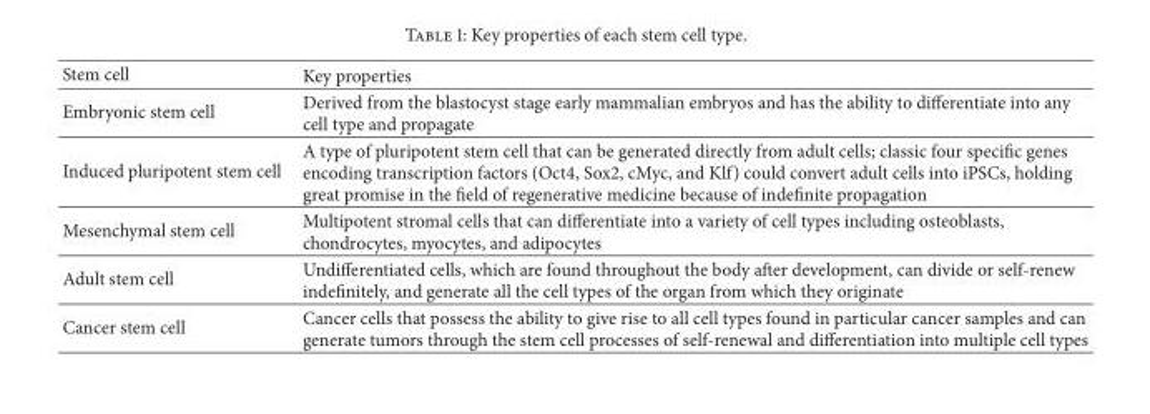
<table><thead><tr><td>Stem cell</td><td>Key properties</td></tr></thead><tbody><tr><td>Embryonic stem cell</td><td>Derived from the blastocyst stage early mammalian embryos and has the ability to differentiate into any cell type and propagate</td></tr><tr><td>Induced pluripotent stem cell</td><td>A type of pluripotent stem cell that can be generated directly from adult cells; classic four specific genes encoding transcription factors (Oct4, Sox2, cMyc, and Klf) could convert adult cells into iPSCs, holding great promise in the field of regenerative medicine because of indefinite propagation</td></tr><tr><td>Mesenchymal stem cell</td><td>Multipotent stromal cells that can differentiate into a variety of cell types including osteoblasts, chondrocytes, myocytes, and adipocytes</td></tr><tr><td>Adult stem cell</td><td>Undifferentiated cells, which are found throughout the body after development, can divide or self-renew indefinitely, and generate all the cell types of the organ from which they originate</td></tr><tr><td>Cancer stem cell</td><td>Cancer cells that possess the ability to give rise to all cell types found in particular cancer samples and can generate tumors through the stem cell processes of self-renewal and differentiation into multiple cell types</td></tr></tbody></table>